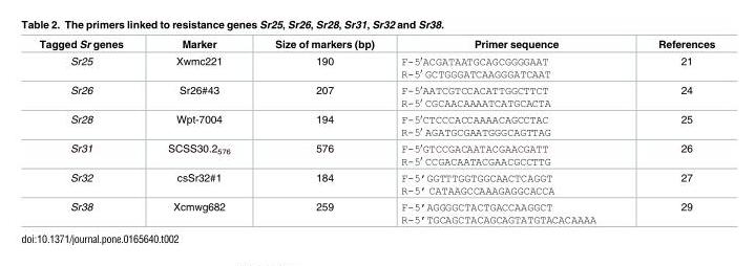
<table><thead><tr><td>Tagged Sr genes</td><td>Marker</td><td>Size of markers (bp)</td><td>Primer sequence</td><td>References</td></tr></thead><tbody><tr><td>Sr25</td><td>Xwmc221</td><td>190</td><td>F-5′ACGATAATGCAGCGGGGAAT R-5′ GCTGGGATCAAGGGATCAAT</td><td>21</td></tr><tr><td>Sr26</td><td>Sr26#43</td><td>207</td><td>F-5′AATCGTCCACATTGGCTTCT R-5′ CGCAACAAAATCATGCACTA</td><td>24</td></tr><tr><td>Sr28</td><td>Wpt-7004</td><td>194</td><td>F-5′CTCCCACCAAAACAGCCTAC R-5′ AGATGCGAATGGGCAGTTAG</td><td>25</td></tr><tr><td>Sr31</td><td>SCSS30.2<sub>576</sub></td><td>576</td><td>F-5′GTCCGACAATACGAACGATT R-5′ CCGACAATACGAACGCCTTG</td><td>26</td></tr><tr><td>Sr32</td><td>csSr32#1</td><td>184</td><td>F-5’GGTTTGGTGGCAACTCAGGT R-5’ CATAAGCCAAAGAGGCACCA</td><td>27</td></tr><tr><td>Sr38</td><td>Xcmwg682</td><td>259</td><td>F-5’AGGGGCTACTGACCAAGGCT R-5’TGCAGCTACAGCAGTATGTACACAAAA</td><td>29</td></tr></tbody></table>